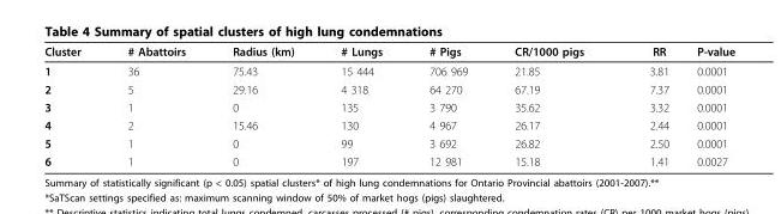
<table><thead><tr><td>Cluster</td><td># Abattoirs</td><td>Radius (km)</td><td># Lungs</td><td># Pigs</td><td>CR/1000 pigs</td><td>RR</td><td>P-value</td></tr></thead><tbody><tr><td>1</td><td>36</td><td>75.43</td><td>15 444</td><td>706 969</td><td>21.85</td><td>3.81</td><td>0.0001</td></tr><tr><td>2</td><td>5</td><td>29.16</td><td>4 318</td><td>64 270</td><td>67.19</td><td>7.37</td><td>0.0001</td></tr><tr><td>3</td><td>1</td><td>0</td><td>135</td><td>3 790</td><td>35.62</td><td>3.32</td><td>0.0001</td></tr><tr><td>4</td><td>2</td><td>15.46</td><td>130</td><td>4 967</td><td>26.17</td><td>2.44</td><td>0.0001</td></tr><tr><td>5</td><td>1</td><td>0</td><td>99</td><td>3 692</td><td>26.82</td><td>2.50</td><td>0.0001</td></tr><tr><td>6</td><td>1</td><td>0</td><td>197</td><td>12 981</td><td>15.18</td><td>1.41</td><td>0.0027</td></tr></tbody></table>